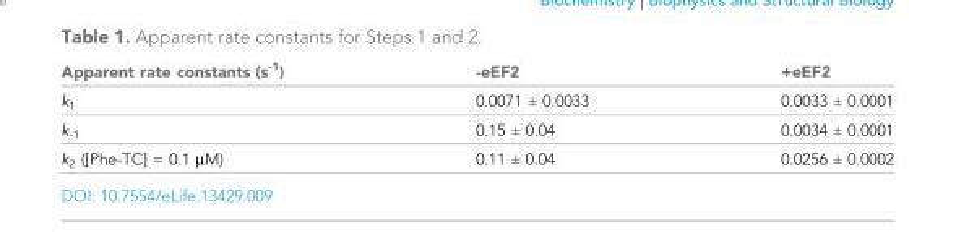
<table><thead><tr><td>Apparent rate constants (s<sup>-1</sup>)</td><td>-eEF2</td><td>+eEF2</td></tr></thead><tbody><tr><td>k<sub>1</sub></td><td>0.0071 ± 0.0033</td><td>0.0033 ± 0.0001</td></tr><tr><td>k<sub>-1</sub></td><td>0.15 ± 0.04</td><td>0.0034 ± 0.0001</td></tr><tr><td>k<sub>2</sub> ([Phe-TC] = 0.1 µM)</td><td>0.11 ± 0.04</td><td>0.0256 ± 0.0002</td></tr></tbody></table>